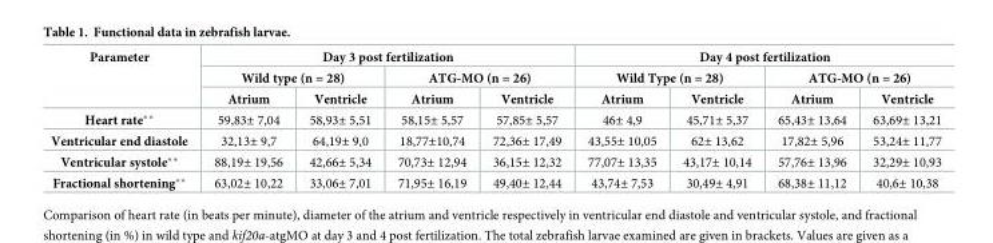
<table><thead><tr><td rowspan="3">Parameter</td><td colspan="4">Day 3 post fertilization</td><td colspan="4">Day 4 post fertilization</td></tr><tr><td colspan="2">Wild type (n = 28)</td><td colspan="2">ATG-MO (n = 26)</td><td colspan="2">Wild Type (n = 28)</td><td colspan="2">ATG-MO (n = 26)</td></tr><tr><td>Atrium</td><td>Ventricle</td><td>Atrium</td><td>Ventricle</td><td>Atrium</td><td>Ventricle</td><td>Atrium</td><td>Ventricle</td></tr></thead><tbody><tr><td>Heart rate**</td><td>59,83± 7,04</td><td>58,93± 5,51</td><td>58,15± 5,57</td><td>57,85± 5,57</td><td>46± 4,9</td><td>45,71± 5,37</td><td>65,43± 13,64</td><td>63,69± 13,21</td></tr><tr><td>Ventricular end diastole</td><td>32,13± 9,7</td><td>64,19± 9,0</td><td>18,77±10,74</td><td>72,36± 17,49</td><td>43,55± 10,05</td><td>62± 13,62</td><td>17,82± 5,96</td><td>53,24± 11,77</td></tr><tr><td>Ventricular systole**</td><td>88,19± 19,56</td><td>42,66± 5,34</td><td>70,73± 12,94</td><td>36,15± 12,32</td><td>77,07± 13,35</td><td>43,17± 10,14</td><td>57,76± 13,96</td><td>32,29± 10,93</td></tr><tr><td>Fractional shortening**</td><td>63,02± 10,22</td><td>33,06± 7,01</td><td>71,95± 16,19</td><td>49,40± 12,44</td><td>43,74± 7,53</td><td>30,49± 4,91</td><td>68,38± 11,12</td><td>40,6± 10,38</td></tr></tbody></table>